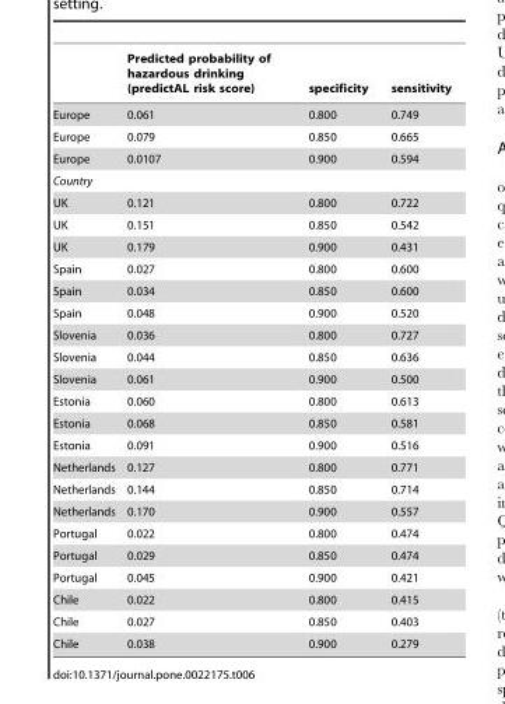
<table><thead><tr><td></td><td>Predicted probability of hazardous drinking (predictAL risk score)</td><td>specificity</td><td>sensitivity</td></tr></thead><tbody><tr><td>Europe</td><td>0.061</td><td>0.800</td><td>0.749</td></tr><tr><td>Europe</td><td>0.079</td><td>0.850</td><td>0.665</td></tr><tr><td>Europe</td><td>0.0107</td><td>0.900</td><td>0.594</td></tr><tr><td colspan="4">Country</td></tr><tr><td>UK</td><td>0.121</td><td>0.800</td><td>0.722</td></tr><tr><td>UK</td><td>0.151</td><td>0.850</td><td>0.542</td></tr><tr><td>UK</td><td>0.179</td><td>0.900</td><td>0.431</td></tr><tr><td>Spain</td><td>0.027</td><td>0.800</td><td>0.600</td></tr><tr><td>Spain</td><td>0.034</td><td>0.850</td><td>0.600</td></tr><tr><td>Spain</td><td>0.048</td><td>0.900</td><td>0.520</td></tr><tr><td>Slovenia</td><td>0.036</td><td>0.800</td><td>0.727</td></tr><tr><td>Slovenia</td><td>0.044</td><td>0.850</td><td>0.636</td></tr><tr><td>Slovenia</td><td>0.061</td><td>0.900</td><td>0.500</td></tr><tr><td>Estonia</td><td>0.060</td><td>0.800</td><td>0.613</td></tr><tr><td>Estonia</td><td>0.068</td><td>0.850</td><td>0.581</td></tr><tr><td>Estonia</td><td>0.091</td><td>0.900</td><td>0.516</td></tr><tr><td>Netherlands</td><td>0.127</td><td>0.800</td><td>0.771</td></tr><tr><td>Netherlands</td><td>0.144</td><td>0.850</td><td>0.714</td></tr><tr><td>Netherlands</td><td>0.170</td><td>0.900</td><td>0.557</td></tr><tr><td>Portugal</td><td>0.022</td><td>0.800</td><td>0.474</td></tr><tr><td>Portugal</td><td>0.029</td><td>0.850</td><td>0.474</td></tr><tr><td>Portugal</td><td>0.045</td><td>0.900</td><td>0.421</td></tr><tr><td>Chile</td><td>0.022</td><td>0.800</td><td>0.415</td></tr><tr><td>Chile</td><td>0.027</td><td>0.850</td><td>0.403</td></tr><tr><td>Chile</td><td>0.038</td><td>0.900</td><td>0.279</td></tr></tbody></table>